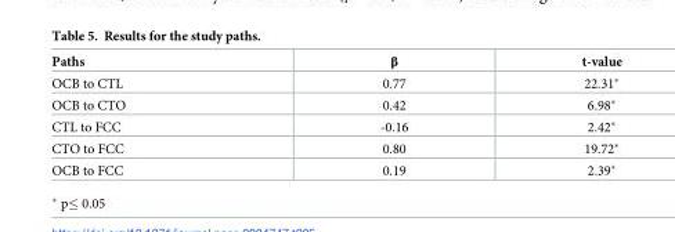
<table><thead><tr><td>Paths</td><td>β</td><td>t-value</td></tr></thead><tbody><tr><td>OCB to CTL</td><td>0.77</td><td>22.31*</td></tr><tr><td>OCB to CTO</td><td>0.42</td><td>6.98*</td></tr><tr><td>CTL to FCC</td><td>-0.16</td><td>2.42*</td></tr><tr><td>CTO to FCC</td><td>0.80</td><td>19.72*</td></tr><tr><td>OCB to FCC</td><td>0.19</td><td>2.39*</td></tr></tbody></table>